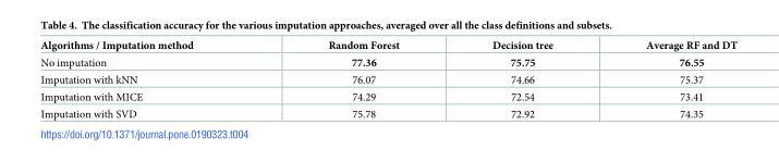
<table><thead><tr><td>Algorithms / Imputation method</td><td>Random Forest</td><td>Decision tree</td><td>Average RF and DT</td></tr></thead><tbody><tr><td>No imputation</td><td>77.36</td><td>75.75</td><td>76.55</td></tr><tr><td>Imputation with kNN</td><td>76.07</td><td>74.66</td><td>75.37</td></tr><tr><td>Imputation with MICE</td><td>74.29</td><td>72.54</td><td>73.41</td></tr><tr><td>Imputation with SVD</td><td>75.78</td><td>72.92</td><td>74.35</td></tr></tbody></table>